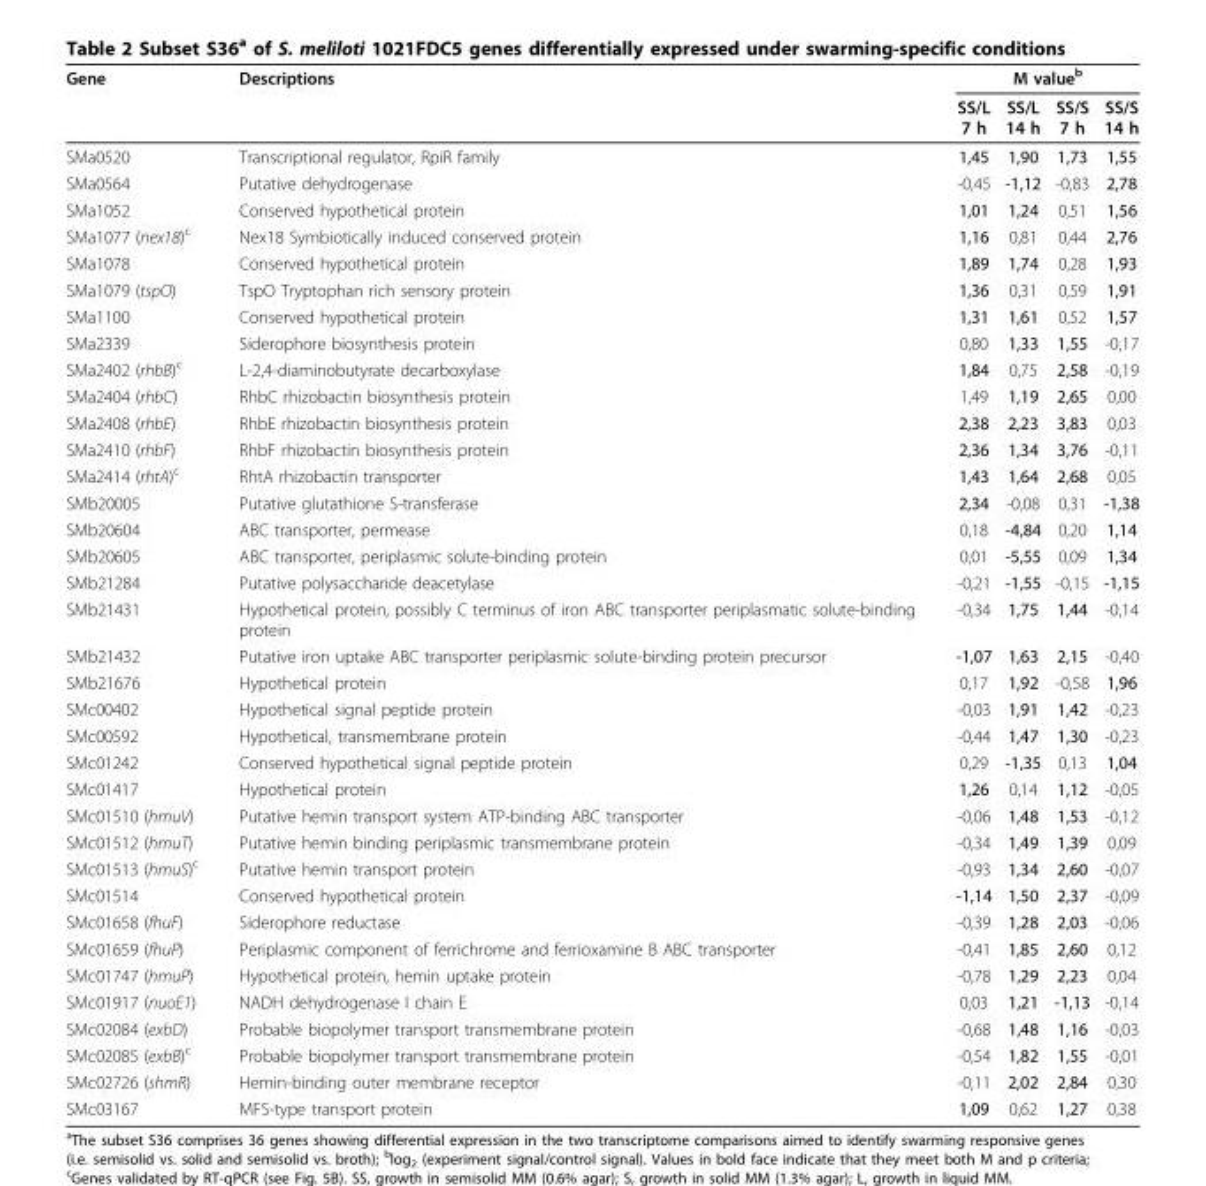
<table><thead><tr><td rowspan="2">Gene</td><td rowspan="2">Descriptions</td><td colspan="4">M value<sup>b</sup></td></tr><tr><td>SS/L 7 h</td><td>SS/L 14 h</td><td>SS/S 7 h</td><td>SS/S 14 h</td></tr></thead><tbody><tr><td>SMa0520</td><td>Transcriptional regulator, RpiR family</td><td>1,45</td><td>1,90</td><td>1,73</td><td>1,55</td></tr><tr><td>SMa0564</td><td>Putative dehydrogenase</td><td>-0,45</td><td>-1,12</td><td>-0,83</td><td>2,78</td></tr><tr><td>SMa1052</td><td>Conserved hypothetical protein</td><td>1,01</td><td>1,24</td><td>0,51</td><td>1,56</td></tr><tr><td>SMa1077 (nex18)<sup>c</sup></td><td>Nex18 Symbiotically induced conserved protein</td><td>1,16</td><td>0,81</td><td>0,44</td><td>2,76</td></tr><tr><td>SMa1078</td><td>Conserved hypothetical protein</td><td>1,89</td><td>1,74</td><td>0,28</td><td>1,93</td></tr><tr><td>SMa1079 (tspO)</td><td>TspO Tryptophan rich sensory protein</td><td>1,36</td><td>0,31</td><td>0,59</td><td>1,91</td></tr><tr><td>SMa1100</td><td>Conserved hypothetical protein</td><td>1,31</td><td>1,61</td><td>0,52</td><td>1,57</td></tr><tr><td>SMa2339</td><td>Siderophore biosynthesis protein</td><td>0,80</td><td>1,33</td><td>1,55</td><td>-0,17</td></tr><tr><td>SMa2402 (rhbB)<sup>c</sup></td><td>L-2,4-diaminobutyrate decarboxylase</td><td>1,84</td><td>0,75</td><td>2,58</td><td>-0,19</td></tr><tr><td>SMa2404 (rhbC)</td><td>RhbC rhizobactin biosynthesis protein</td><td>1,49</td><td>1,19</td><td>2,65</td><td>0,00</td></tr><tr><td>SMa2408 (rhbE)</td><td>RhbE rhizobactin biosynthesis protein</td><td>2,38</td><td>2,23</td><td>3,83</td><td>0,03</td></tr><tr><td>SMa2410 (rhbF)</td><td>RhbF rhizobactin biosynthesis protein</td><td>2,36</td><td>1,34</td><td>3,76</td><td>-0,11</td></tr><tr><td>SMa2414 (rhtA)<sup>c</sup></td><td>RhtA rhizobactin transporter</td><td>1,43</td><td>1,64</td><td>2,68</td><td>0,05</td></tr><tr><td>SMb20005</td><td>Putative glutathione S-transferase</td><td>2,34</td><td>-0,08</td><td>0,31</td><td>-1,38</td></tr><tr><td>SMb20604</td><td>ABC transporter, permease</td><td>0,18</td><td>-4,84</td><td>0,20</td><td>1,14</td></tr><tr><td>SMb20605</td><td>ABC transporter, periplasmic solute-binding protein</td><td>0,01</td><td>-5,55</td><td>0,09</td><td>1,34</td></tr><tr><td>SMb21284</td><td>Putative polysaccharide deacetylase</td><td>-0,21</td><td>-1,55</td><td>-0,15</td><td>-1,15</td></tr><tr><td>SMb21431</td><td>Hypothetical protein, possibly C terminus of iron ABC transporter periplasmatic solute-binding protein</td><td>-0,34</td><td>1,75</td><td>1,44</td><td>-0,14</td></tr><tr><td>SMb21432</td><td>Putative iron uptake ABC transporter periplasmic solute-binding protein precursor</td><td>-1,07</td><td>1,63</td><td>2,15</td><td>-0,40</td></tr><tr><td>SMb21676</td><td>Hypothetical protein</td><td>0,17</td><td>1,92</td><td>-0,58</td><td>1,96</td></tr><tr><td>SMc00402</td><td>Hypothetical signal peptide protein</td><td>-0,03</td><td>1,91</td><td>1,42</td><td>-0,23</td></tr><tr><td>SMc00592</td><td>Hypothetical, transmembrane protein</td><td>-0,44</td><td>1,47</td><td>1,30</td><td>-0,23</td></tr><tr><td>SMc01242</td><td>Conserved hypothetical signal peptide protein</td><td>0,29</td><td>-1,35</td><td>0,13</td><td>1,04</td></tr><tr><td>SMc01417</td><td>Hypothetical protein</td><td>1,26</td><td>0,14</td><td>1,12</td><td>-0,05</td></tr><tr><td>SMc01510 (hmuV)</td><td>Putative hemin transport system ATP-binding ABC transporter</td><td>-0,06</td><td>1,48</td><td>1,53</td><td>-0,12</td></tr><tr><td>SMc01512 (hmuT)</td><td>Putative hemin binding periplasmic transmembrane protein</td><td>-0,34</td><td>1,49</td><td>1,39</td><td>0,09</td></tr><tr><td>SMc01513 (hmuS)<sup>c</sup></td><td>Putative hemin transport protein</td><td>-0,93</td><td>1,34</td><td>2,60</td><td>-0,07</td></tr><tr><td>SMc01514</td><td>Conserved hypothetical protein</td><td>-1,14</td><td>1,50</td><td>2,37</td><td>-0,09</td></tr><tr><td>SMc01658 (fhuF)</td><td>Siderophore reductase</td><td>-0,39</td><td>1,28</td><td>2,03</td><td>-0,06</td></tr><tr><td>SMc01659 (fhuP)</td><td>Periplasmic component of ferrichrome and ferrioxamine B ABC transporter</td><td>-0,41</td><td>1,85</td><td>2,60</td><td>0,12</td></tr><tr><td>SMc01747 (hmuP)</td><td>Hypothetical protein, hemin uptake protein</td><td>-0,78</td><td>1,29</td><td>2,23</td><td>0,04</td></tr><tr><td>SMc01917 (nuoE1)</td><td>NADH dehydrogenase I chain E</td><td>0,03</td><td>1,21</td><td>-1,13</td><td>-0,14</td></tr><tr><td>SMc02084 (exbD)</td><td>Probable biopolymer transport transmembrane protein</td><td>-0,68</td><td>1,48</td><td>1,16</td><td>-0,03</td></tr><tr><td>SMc02085 (exbB)<sup>c</sup></td><td>Probable biopolymer transport transmembrane protein</td><td>-0,54</td><td>1,82</td><td>1,55</td><td>-0,01</td></tr><tr><td>SMc02726 (shmR)</td><td>Hemin-binding outer membrane receptor</td><td>-0,11</td><td>2,02</td><td>2,84</td><td>0,30</td></tr><tr><td>SMc03167</td><td>MFS-type transport protein</td><td>1,09</td><td>0,62</td><td>1,27</td><td>0,38</td></tr></tbody></table>